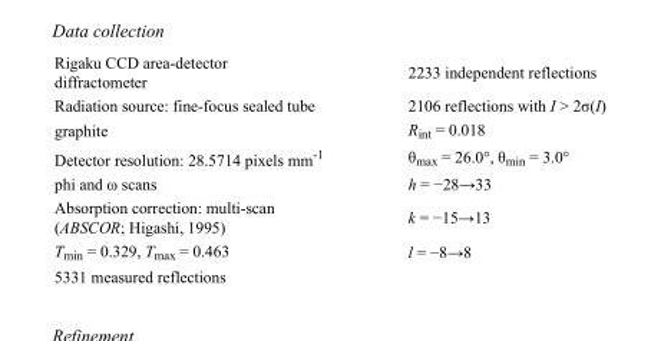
<table><tbody><tr><td>Rigaku CCD area-detector diffractometer</td><td>2233 independent reflections</td></tr><tr><td>Radiation source: fine-focus sealed tube</td><td>2106 reflections with I &gt; 2σ(I)</td></tr><tr><td>graphite</td><td>R<sub>int</sub> = 0.018</td></tr><tr><td>Detector resolution: 28.5714 pixels mm<sup>-1</sup></td><td>θ<sub>max</sub> = 26.0°, θ<sub>min</sub> = 3.0°</td></tr><tr><td>phi and ω scans</td><td>h = −28→33</td></tr><tr><td>Absorption correction: multi-scan (ABSCOR; Higashi, 1995)</td><td>k = −15→13</td></tr><tr><td>T<sub>min</sub> = 0.329, T<sub>max</sub> = 0.463</td><td>l = −8→8</td></tr><tr><td>5331 measured reflections</td><td></td></tr></tbody></table>